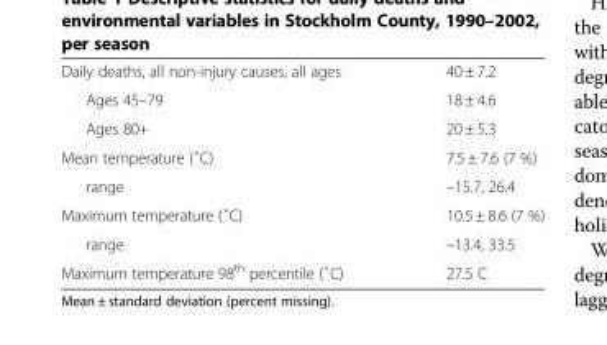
<table><tbody><tr><td>Daily deaths, all non-injury causes, all ages</td><td>40 ± 7.2</td></tr><tr><td>Ages 45–79</td><td>18 ± 4.6</td></tr><tr><td>Ages 80+</td><td>20 ± 5.3</td></tr><tr><td>Mean temperature (˚C)</td><td>7.5 ± 7.6 (7 %)</td></tr><tr><td>range</td><td>–15.7, 26.4</td></tr><tr><td>Maximum temperature (˚C)</td><td>10.5 ± 8.6 (7 %)</td></tr><tr><td>range</td><td>–13.4, 33.5</td></tr><tr><td>Maximum temperature 98<sup>th</sup> percentile (˚C)</td><td>27.5 C</td></tr></tbody></table>